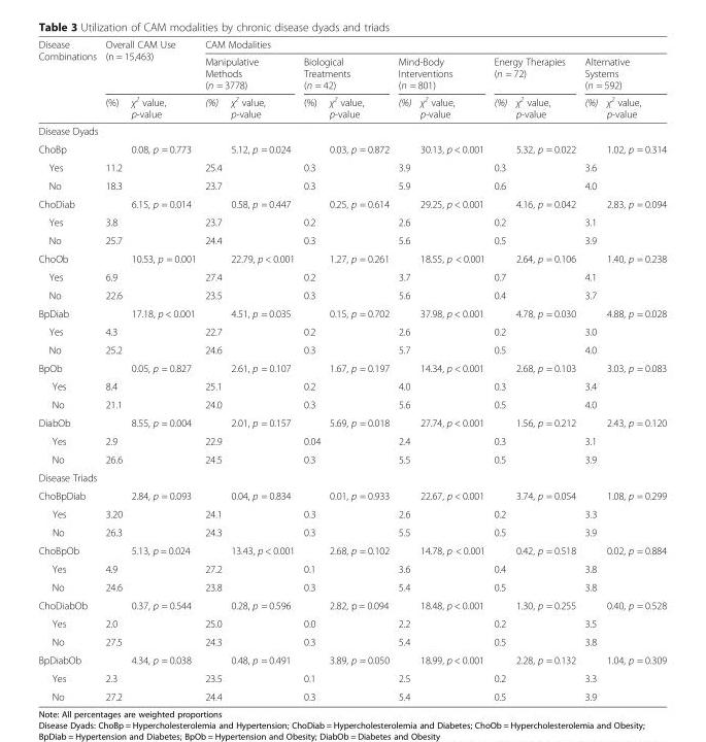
<table><thead><tr><td rowspan="3">Disease Combinations</td><td rowspan="2" colspan="2">Overall CAM Use (n = 15,463)</td><td colspan="10">CAM Modalities</td></tr><tr><td colspan="2">Manipulative Methods (n = 3778)</td><td colspan="2">Biological Treatments (n = 42)</td><td colspan="2">Mind-Body Interventions (n = 801)</td><td colspan="2">Energy Therapies (n = 72)</td><td colspan="2">Alternative Systems (n = 592)</td></tr><tr><td>(%)</td><td>χ<sup>2</sup> value, p-value</td><td>(%)</td><td>χ<sup>2</sup> value, p-value</td><td>(%)</td><td>χ<sup>2</sup> value, p-value</td><td>(%)</td><td>χ<sup>2</sup> value, p-value</td><td>(%)</td><td>χ<sup>2</sup> value, p-value</td><td>(%)</td><td>χ<sup>2</sup> value, p-value</td></tr></thead><tbody><tr><td colspan="13">Disease Dyads</td></tr><tr><td>ChoBp</td><td></td><td>0.08, p = 0.773</td><td></td><td>5.12, p = 0.024</td><td></td><td>0.03, p = 0.872</td><td></td><td>30.13, p &lt; 0.001</td><td></td><td>5.32, p = 0.022</td><td></td><td>1.02, p = 0.314</td></tr><tr><td>Yes</td><td>11.2</td><td></td><td>25.4</td><td></td><td>0.3</td><td></td><td>3.9</td><td></td><td>0.3</td><td></td><td>3.6</td><td></td></tr><tr><td>No</td><td>18.3</td><td></td><td>23.7</td><td></td><td>0.3</td><td></td><td>5.9</td><td></td><td>0.6</td><td></td><td>4.0</td><td></td></tr><tr><td>ChoDiab</td><td></td><td>6.15, p = 0.014</td><td></td><td>0.58, p = 0.447</td><td></td><td>0.25, p = 0.614</td><td></td><td>29.25, p &lt; 0.001</td><td></td><td>4.16, p = 0.042</td><td></td><td>2.83, p = 0.094</td></tr><tr><td>Yes</td><td>3.8</td><td></td><td>23.7</td><td></td><td>0.2</td><td></td><td>2.6</td><td></td><td>0.2</td><td></td><td>3.1</td><td></td></tr><tr><td>No</td><td>25.7</td><td></td><td>24.4</td><td></td><td>0.3</td><td></td><td>5.6</td><td></td><td>0.5</td><td></td><td>3.9</td><td></td></tr><tr><td>ChoOb</td><td></td><td>10.53, p = 0.001</td><td></td><td>22.79, p &lt; 0.001</td><td></td><td>1.27, p = 0.261</td><td></td><td>18.55, p &lt; 0.001</td><td></td><td>2.64, p = 0.106</td><td></td><td>1.40, p = 0.238</td></tr><tr><td>Yes</td><td>6.9</td><td></td><td>27.4</td><td></td><td>0.2</td><td></td><td>3.7</td><td></td><td>0.7</td><td></td><td>4.1</td><td></td></tr><tr><td>No</td><td>22.6</td><td></td><td>23.5</td><td></td><td>0.3</td><td></td><td>5.6</td><td></td><td>0.4</td><td></td><td>3.7</td><td></td></tr><tr><td>BpDiab</td><td></td><td>17.18, p &lt; 0.001</td><td></td><td>4.51, p = 0.035</td><td></td><td>0.15, p = 0.702</td><td></td><td>37.98, p &lt; 0.001</td><td></td><td>4.78, p = 0.030</td><td></td><td>4.88, p = 0.028</td></tr><tr><td>Yes</td><td>4.3</td><td></td><td>22.7</td><td></td><td>0.2</td><td></td><td>2.6</td><td></td><td>0.2</td><td></td><td>3.0</td><td></td></tr><tr><td>No</td><td>25.2</td><td></td><td>24.6</td><td></td><td>0.3</td><td></td><td>5.7</td><td></td><td>0.5</td><td></td><td>4.0</td><td></td></tr><tr><td>BpOb</td><td></td><td>0.05, p = 0.827</td><td></td><td>2.61, p = 0.107</td><td></td><td>1.67, p = 0.197</td><td></td><td>14.34, p &lt; 0.001</td><td></td><td>2.68, p = 0.103</td><td></td><td>3.03, p = 0.083</td></tr><tr><td>Yes</td><td>8.4</td><td></td><td>25.1</td><td></td><td>0.2</td><td></td><td>4.0</td><td></td><td>0.3</td><td></td><td>3.4</td><td></td></tr><tr><td>No</td><td>21.1</td><td></td><td>24.0</td><td></td><td>0.3</td><td></td><td>5.6</td><td></td><td>0.5</td><td></td><td>4.0</td><td></td></tr><tr><td>DiabOb</td><td></td><td>8.55, p = 0.004</td><td></td><td>2.01, p = 0.157</td><td></td><td>5.69, p = 0.018</td><td></td><td>27.74, p &lt; 0.001</td><td></td><td>1.56, p = 0.212</td><td></td><td>2.43, p = 0.120</td></tr><tr><td>Yes</td><td>2.9</td><td></td><td>22.9</td><td></td><td>0.04</td><td></td><td>2.4</td><td></td><td>0.3</td><td></td><td>3.1</td><td></td></tr><tr><td>No</td><td>26.6</td><td></td><td>24.5</td><td></td><td>0.3</td><td></td><td>5.5</td><td></td><td>0.5</td><td></td><td>3.9</td><td></td></tr><tr><td colspan="13">Disease Triads</td></tr><tr><td>ChoBpDiab</td><td></td><td>2.84, p = 0.093</td><td></td><td>0.04, p = 0.834</td><td></td><td>0.01, p = 0.933</td><td></td><td>22.67, p &lt; 0.001</td><td></td><td>3.74, p = 0.054</td><td></td><td>1.08, p = 0.299</td></tr><tr><td>Yes</td><td>3.20</td><td></td><td>24.1</td><td></td><td>0.3</td><td></td><td>2.6</td><td></td><td>0.2</td><td></td><td>3.3</td><td></td></tr><tr><td>No</td><td>26.3</td><td></td><td>24.3</td><td></td><td>0.3</td><td></td><td>5.5</td><td></td><td>0.5</td><td></td><td>3.9</td><td></td></tr><tr><td>ChoBpOb</td><td></td><td>5.13, p = 0.024</td><td></td><td>13.43, p &lt; 0.001</td><td></td><td>2.68, p = 0.102</td><td></td><td>14.78, p &lt; 0.001</td><td></td><td>0.42, p = 0.518</td><td></td><td>0.02, p = 0.884</td></tr><tr><td>Yes</td><td>4.9</td><td></td><td>27.2</td><td></td><td>0.1</td><td></td><td>3.6</td><td></td><td>0.4</td><td></td><td>3.8</td><td></td></tr><tr><td>No</td><td>24.6</td><td></td><td>23.8</td><td></td><td>0.3</td><td></td><td>5.4</td><td></td><td>0.5</td><td></td><td>3.8</td><td></td></tr><tr><td>ChoDiabOb</td><td></td><td>0.37, p = 0.544</td><td></td><td>0.28, p = 0.596</td><td></td><td>2.82, p = 0.094</td><td></td><td>18.48, p &lt; 0.001</td><td></td><td>1.30, p = 0.255</td><td></td><td>0.40, p = 0.528</td></tr><tr><td>Yes</td><td>2.0</td><td></td><td>25.0</td><td></td><td>0.0</td><td></td><td>2.2</td><td></td><td>0.2</td><td></td><td>3.5</td><td></td></tr><tr><td>No</td><td>27.5</td><td></td><td>24.3</td><td></td><td>0.3</td><td></td><td>5.4</td><td></td><td>0.5</td><td></td><td>3.8</td><td></td></tr><tr><td>BpDiabOb</td><td></td><td>4.34, p = 0.038</td><td></td><td>0.48, p = 0.491</td><td></td><td>3.89, p = 0.050</td><td></td><td>18.99, p &lt; 0.001</td><td></td><td>2.28, p = 0.132</td><td></td><td>1.04, p = 0.309</td></tr><tr><td>Yes</td><td>2.3</td><td></td><td>23.5</td><td></td><td>0.1</td><td></td><td>2.5</td><td></td><td>0.2</td><td></td><td>3.3</td><td></td></tr><tr><td>No</td><td>27.2</td><td></td><td>24.4</td><td></td><td>0.3</td><td></td><td>5.4</td><td></td><td>0.5</td><td></td><td>3.9</td><td></td></tr></tbody></table>